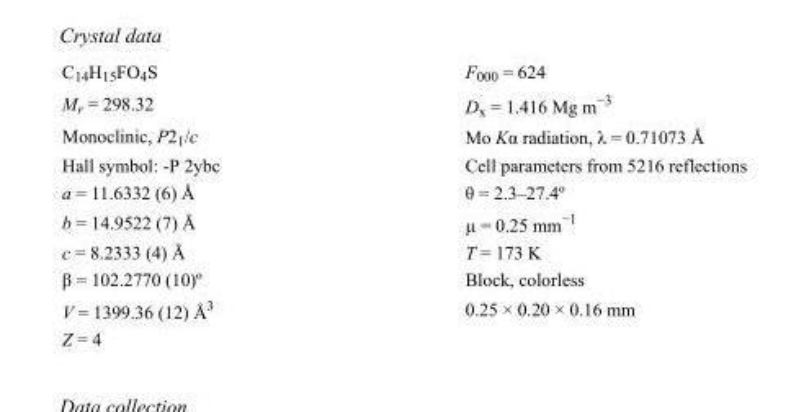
<table><tbody><tr><td>C<sub>14</sub>H<sub>15</sub>FO<sub>4</sub>S</td><td>F000 = 624</td></tr><tr><td>M<sub>r</sub> = 298.32</td><td>D<sub>x</sub> = 1.416 Mg m<sup>−3</sup></td></tr><tr><td>Monoclinic, P2<sub>1</sub>/c</td><td>Mo Kα radiation, λ = 0.71073 Å</td></tr><tr><td>Hall symbol: -P 2ybc</td><td>Cell parameters from 5216 reflections</td></tr><tr><td>a = 11.6332 (6) Å</td><td>θ = 2.3–27.4º</td></tr><tr><td>b = 14.9522 (7) Å</td><td>µ = 0.25 mm<sup>−1</sup></td></tr><tr><td>c = 8.2333 (4) Å</td><td>T = 173 K</td></tr><tr><td>β = 102.2770 (10)º</td><td>Block, colorless</td></tr><tr><td>V = 1399.36 (12) Å<sup>3</sup></td><td>0.25 × 0.20 × 0.16 mm</td></tr><tr><td>Z = 4</td><td></td></tr></tbody></table>